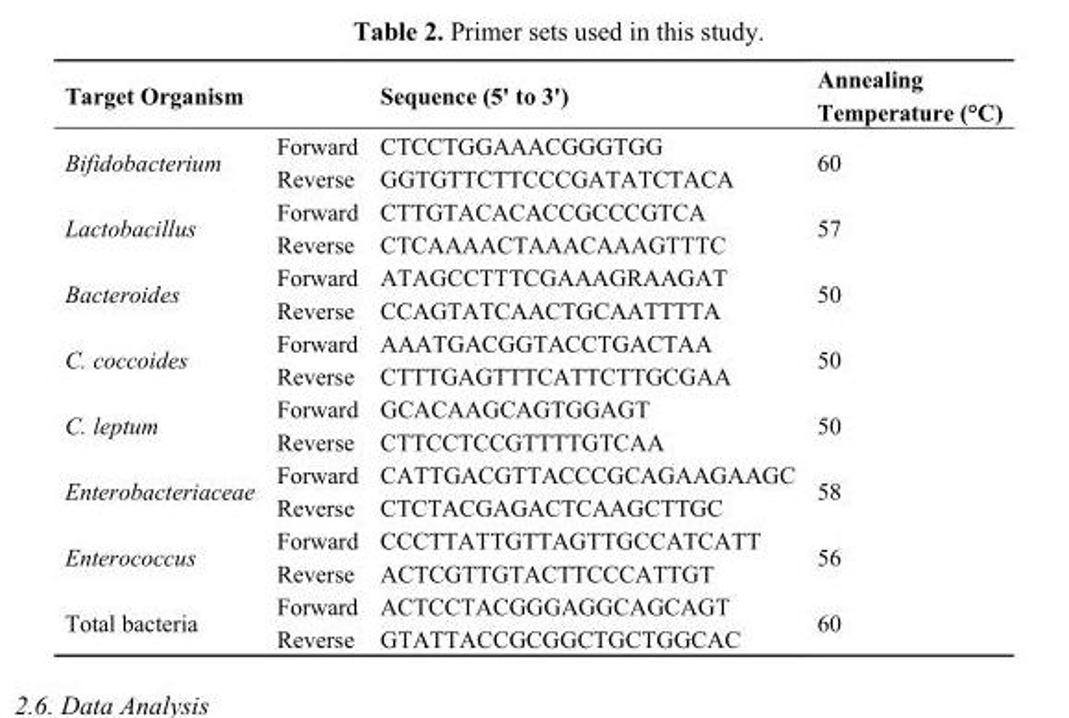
<table><thead><tr><td rowspan="2">Target Organism</td><td rowspan="2"></td><td rowspan="2">Sequence (5&#x27; to 3&#x27;)</td><td rowspan="2">Annealing Temperature (°C)</td></tr><tr></tr></thead><tbody><tr><td rowspan="2">Bifidobacterium</td><td>Forward</td><td>CTCCTGGAAACGGGTGG</td><td rowspan="2">60</td></tr><tr><td>Reverse</td><td>GGTGTTCTTCCCGATATCTACA</td></tr><tr><td rowspan="2">Lactobacillus</td><td>Forward</td><td>CTTGTACACACCGCCCGTCA</td><td rowspan="2">57</td></tr><tr><td>Reverse</td><td>CTCAAAACTAAACAAAGTTTC</td></tr><tr><td rowspan="2">Bacteroides</td><td>Forward</td><td>ATAGCCTTTCGAAAGRAAGAT</td><td rowspan="2">50</td></tr><tr><td>Reverse</td><td>CCAGTATCAACTGCAATTTTA</td></tr><tr><td rowspan="2">C. coccoides</td><td>Forward</td><td>AAATGACGGTACCTGACTAA</td><td rowspan="2">50</td></tr><tr><td>Reverse</td><td>CTTTGAGTTTCATTCTTGCGAA</td></tr><tr><td rowspan="2">C. leptum</td><td>Forward</td><td>GCACAAGCAGTGGAGT</td><td rowspan="2">50</td></tr><tr><td>Reverse</td><td>CTTCCTCCGTTTTGTCAA</td></tr><tr><td rowspan="2">Enterobacteriaceae</td><td>Forward</td><td>CATTGACGTTACCCGCAGAAGAAGC</td><td rowspan="2">58</td></tr><tr><td>Reverse</td><td>CTCTACGAGACTCAAGCTTGC</td></tr><tr><td rowspan="2">Enterococcus</td><td>Forward</td><td>CCCTTATTGTTAGTTGCCATCATT</td><td rowspan="2">56</td></tr><tr><td>Reverse</td><td>ACTCGTTGTACTTCCCATTGT</td></tr><tr><td rowspan="2">Total bacteria</td><td>Forward</td><td>ACTCCTACGGGAGGCAGCAGT</td><td rowspan="2">60</td></tr><tr><td>Reverse</td><td>GTATTACCGCGGCTGCTGGCAC</td></tr></tbody></table>